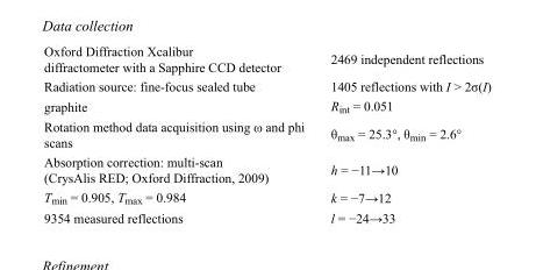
<table><tbody><tr><td>Oxford Diffraction Xcalibur diffractometer with a Sapphire CCD detector</td><td>2469 independent reflections</td></tr><tr><td>Radiation source: fine-focus sealed tube</td><td>1405 reflections with I &gt; 2σ(I)</td></tr><tr><td>graphite</td><td>R<sub>int</sub> = 0.051</td></tr><tr><td>Rotation method data acquisition using ω and phi scans</td><td>θ<sub>max</sub> = 25.3°, θ<sub>min</sub> = 2.6°</td></tr><tr><td>Absorption correction: multi-scan (CrysAlis RED; Oxford Diffraction, 2009)</td><td>h = −11→10</td></tr><tr><td>T<sub>min</sub> = 0.905, T<sub>max</sub> = 0.984</td><td>k = −7→12</td></tr><tr><td>9354 measured reflections</td><td>l = −24→33</td></tr></tbody></table>